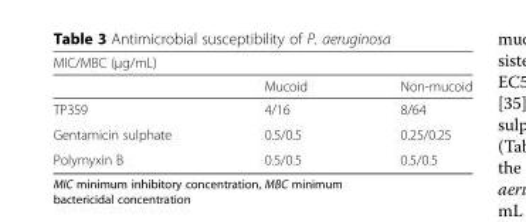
<table><thead><tr><td colspan="3">MIC/MBC (μg/mL)</td></tr><tr><td></td><td>Mucoid</td><td>Non-mucoid</td></tr></thead><tbody><tr><td>TP359</td><td>4/16</td><td>8/64</td></tr><tr><td>Gentamicin sulphate</td><td>0.5/0.5</td><td>0.25/0.25</td></tr><tr><td>Polymyxin B</td><td>0.5/0.5</td><td>0.5/0.5</td></tr></tbody></table>